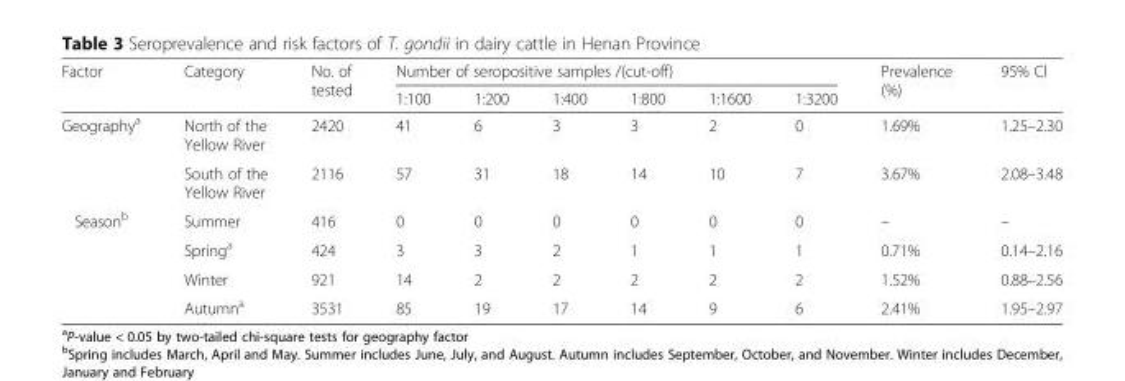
<table><thead><tr><td rowspan="2">Factor</td><td rowspan="2">Category</td><td rowspan="2">No. of tested</td><td colspan="6">Number of seropositive samples /(cut-off)</td><td rowspan="2">Prevalence (%)</td><td rowspan="2">95% Cl</td></tr><tr><td>1:100</td><td>1:200</td><td>1:400</td><td>1:800</td><td>1:1600</td><td>1:3200</td></tr></thead><tbody><tr><td rowspan="2">Geography<sup>a</sup></td><td>North of the Yellow River</td><td>2420</td><td>41</td><td>6</td><td>3</td><td>3</td><td>2</td><td>0</td><td>1.69%</td><td>1.25–2.30</td></tr><tr><td>South of the Yellow River</td><td>2116</td><td>57</td><td>31</td><td>18</td><td>14</td><td>10</td><td>7</td><td>3.67%</td><td>2.08–3.48</td></tr><tr><td rowspan="4">Season<sup>b</sup></td><td>Summer</td><td>416</td><td>0</td><td>0</td><td>0</td><td>0</td><td>0</td><td>0</td><td>–</td><td>–</td></tr><tr><td>Spring<sup>a</sup></td><td>424</td><td>3</td><td>3</td><td>2</td><td>1</td><td>1</td><td>1</td><td>0.71%</td><td>0.14–2.16</td></tr><tr><td>Winter</td><td>921</td><td>14</td><td>2</td><td>2</td><td>2</td><td>2</td><td>2</td><td>1.52%</td><td>0.88–2.56</td></tr><tr><td>Autumn<sup>a</sup></td><td>3531</td><td>85</td><td>19</td><td>17</td><td>14</td><td>9</td><td>6</td><td>2.41%</td><td>1.95–2.97</td></tr></tbody></table>